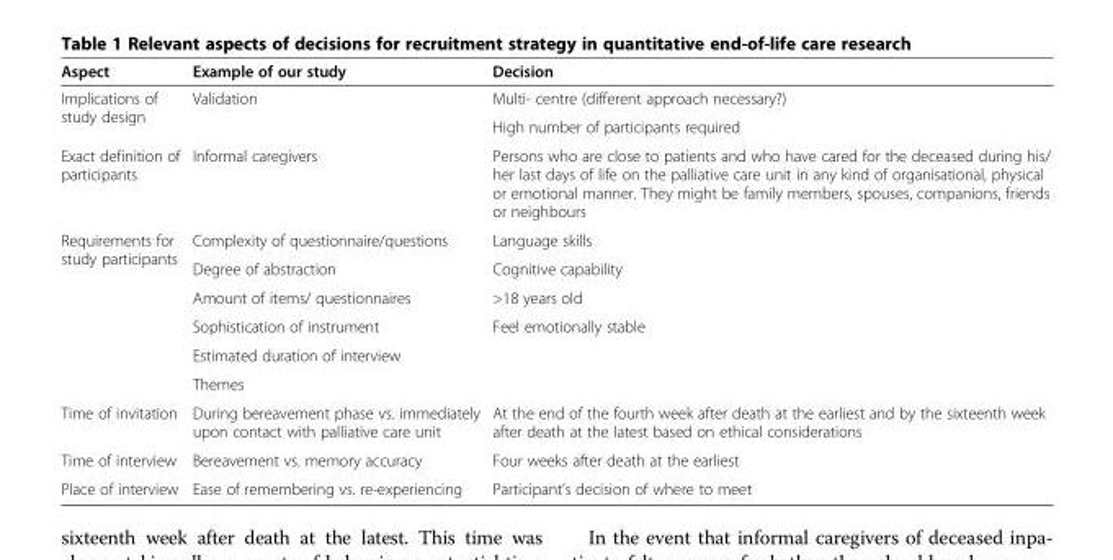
<table><thead><tr><td>Aspect</td><td>Example of our study</td><td>Decision</td></tr></thead><tbody><tr><td rowspan="2">Implications of study design</td><td rowspan="2">Validation</td><td>Multi- centre (different approach necessary?)</td></tr><tr><td>High number of participants required</td></tr><tr><td>Exact definition of participants</td><td>Informal caregivers</td><td>Persons who are close to patients and who have cared for the deceased during his/ her last days of life on the palliative care unit in any kind of organisational, physical or emotional manner. They might be family members, spouses, companions, friends or neighbours</td></tr><tr><td rowspan="6">Requirements for study participants</td><td>Complexity of questionnaire/questions</td><td>Language skills</td></tr><tr><td>Degree of abstraction</td><td>Cognitive capability</td></tr><tr><td>Amount of items/ questionnaires</td><td>&gt;18 years old</td></tr><tr><td>Sophistication of instrument</td><td rowspan="3">Feel emotionally stable</td></tr><tr><td>Estimated duration of interview</td></tr><tr><td>Themes</td></tr><tr><td>Time of invitation</td><td>During bereavement phase vs. immediately upon contact with palliative care unit</td><td>At the end of the fourth week after death at the earliest and by the sixteenth week after death at the latest based on ethical considerations</td></tr><tr><td>Time of interview</td><td>Bereavement vs. memory accuracy</td><td>Four weeks after death at the earliest</td></tr><tr><td>Place of interview</td><td>Ease of remembering vs. re-experiencing</td><td>Participant’s decision of where to meet</td></tr></tbody></table>